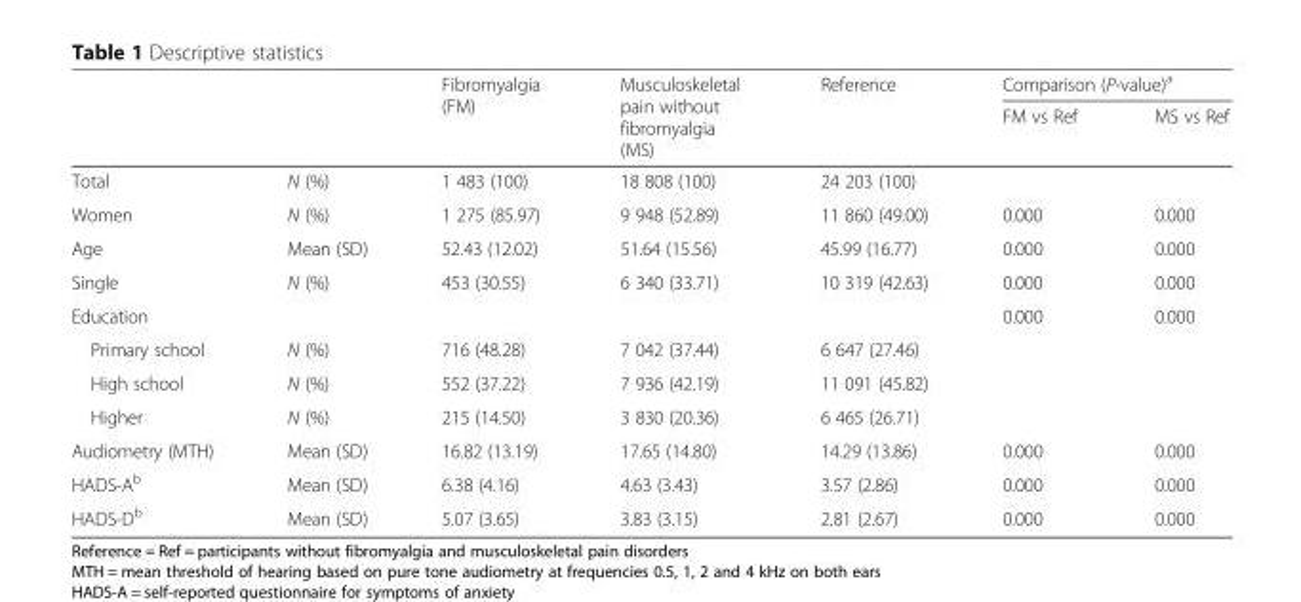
<table><thead><tr><td rowspan="2"></td><td rowspan="2"></td><td rowspan="2">Fibromyalgia (FM)</td><td rowspan="2">Musculoskeletal pain without fibromyalgia (MS)</td><td rowspan="2">Reference</td><td colspan="2">Comparison (P-value)<sup>a</sup></td></tr><tr><td>FM vs Ref</td><td>MS vs Ref</td></tr></thead><tbody><tr><td>Total</td><td>N (%)</td><td>1 483 (100)</td><td>18 808 (100)</td><td>24 203 (100)</td><td></td><td></td></tr><tr><td>Women</td><td>N (%)</td><td>1 275 (85.97)</td><td>9 948 (52.89)</td><td>11 860 (49.00)</td><td>0.000</td><td>0.000</td></tr><tr><td>Age</td><td>Mean (SD)</td><td>52.43 (12.02)</td><td>51.64 (15.56)</td><td>45.99 (16.77)</td><td>0.000</td><td>0.000</td></tr><tr><td>Single</td><td>N (%)</td><td>453 (30.55)</td><td>6 340 (33.71)</td><td>10 319 (42.63)</td><td>0.000</td><td>0.000</td></tr><tr><td>Education</td><td></td><td></td><td></td><td></td><td>0.000</td><td>0.000</td></tr><tr><td>Primary school</td><td>N (%)</td><td>716 (48.28)</td><td>7 042 (37.44)</td><td>6 647 (27.46)</td><td></td><td></td></tr><tr><td>High school</td><td>N (%)</td><td>552 (37.22)</td><td>7 936 (42.19)</td><td>11 091 (45.82)</td><td></td><td></td></tr><tr><td>Higher</td><td>N (%)</td><td>215 (14.50)</td><td>3 830 (20.36)</td><td>6 465 (26.71)</td><td></td><td></td></tr><tr><td>Audiometry (MTH)</td><td>Mean (SD)</td><td>16.82 (13.19)</td><td>17.65 (14.80)</td><td>14.29 (13.86)</td><td>0.000</td><td>0.000</td></tr><tr><td>HADS-A<sup>b</sup></td><td>Mean (SD)</td><td>6.38 (4.16)</td><td>4.63 (3.43)</td><td>3.57 (2.86)</td><td>0.000</td><td>0.000</td></tr><tr><td>HADS-D<sup>b</sup></td><td>Mean (SD)</td><td>5.07 (3.65)</td><td>3.83 (3.15)</td><td>2.81 (2.67)</td><td>0.000</td><td>0.000</td></tr></tbody></table>